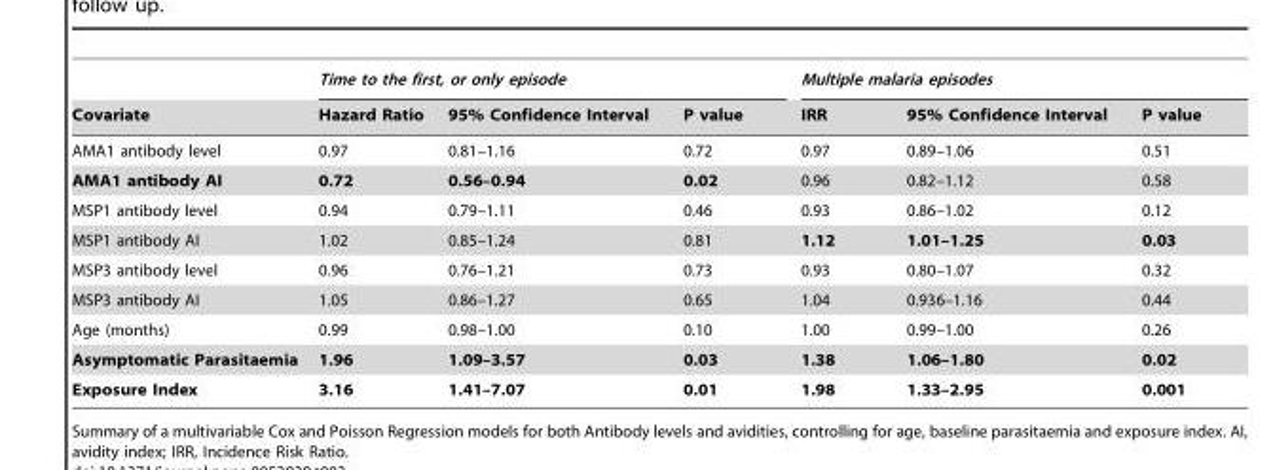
<table><thead><tr><td rowspan="2">Covariate</td><td colspan="3">Time to the first, or only episode</td><td colspan="3">Multiple malaria episodes</td></tr><tr><td>Hazard Ratio</td><td>95% Confidence Interval</td><td>P value</td><td>IRR</td><td>95% Confidence Interval</td><td>P value</td></tr></thead><tbody><tr><td>AMA1 antibody level</td><td>0.97</td><td>0.81–1.16</td><td>0.72</td><td>0.97</td><td>0.89–1.06</td><td>0.51</td></tr><tr><td>AMA1 antibody AI</td><td>0.72</td><td>0.56–0.94</td><td>0.02</td><td>0.96</td><td>0.82–1.12</td><td>0.58</td></tr><tr><td>MSP1 antibody level</td><td>0.94</td><td>0.79–1.11</td><td>0.46</td><td>0.93</td><td>0.86–1.02</td><td>0.12</td></tr><tr><td>MSP1 antibody AI</td><td>1.02</td><td>0.85–1.24</td><td>0.81</td><td>1.12</td><td>1.01–1.25</td><td>0.03</td></tr><tr><td>MSP3 antibody level</td><td>0.96</td><td>0.76–1.21</td><td>0.73</td><td>0.93</td><td>0.80–1.07</td><td>0.32</td></tr><tr><td>MSP3 antibody AI</td><td>1.05</td><td>0.86–1.27</td><td>0.65</td><td>1.04</td><td>0.936–1.16</td><td>0.44</td></tr><tr><td>Age (months)</td><td>0.99</td><td>0.98–1.00</td><td>0.10</td><td>1.00</td><td>0.99–1.00</td><td>0.26</td></tr><tr><td>Asymptomatic Parasitaemia</td><td>1.96</td><td>1.09–3.57</td><td>0.03</td><td>1.38</td><td>1.06–1.80</td><td>0.02</td></tr><tr><td>Exposure Index</td><td>3.16</td><td>1.41–7.07</td><td>0.01</td><td>1.98</td><td>1.33–2.95</td><td>0.001</td></tr></tbody></table>